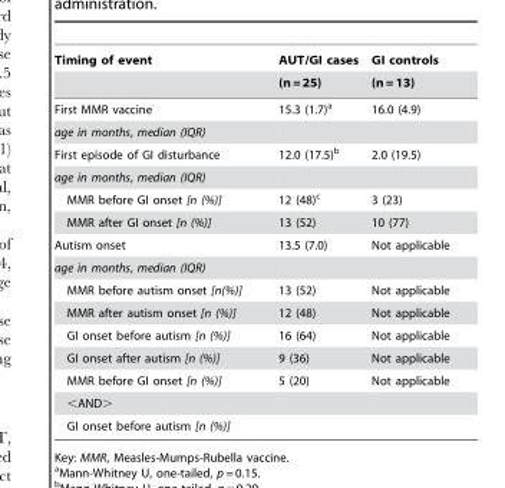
<table><thead><tr><td rowspan="2">Timing of event</td><td rowspan="2">AUT/GI cases (n = 25)</td><td rowspan="2">GI controls (n = 13)</td></tr><tr></tr></thead><tbody><tr><td>First MMR vaccine</td><td>15.3 (1.7)<sup>a</sup></td><td>16.0 (4.9)</td></tr><tr><td colspan="3">age in months, median (IQR)</td></tr><tr><td>First episode of GI disturbance</td><td>12.0 (17.5)<sup>b</sup></td><td>2.0 (19.5)</td></tr><tr><td colspan="3">age in months, median (IQR)</td></tr><tr><td>MMR before GI onset [n (%)]</td><td>12 (48)<sup>c</sup></td><td>3 (23)</td></tr><tr><td>MMR after GI onset [n (%)]</td><td>13 (52)</td><td>10 (77)</td></tr><tr><td>Autism onset</td><td>13.5 (7.0)</td><td>Not applicable</td></tr><tr><td colspan="3">age in months, median (IQR)</td></tr><tr><td>MMR before autism onset [n(%)]</td><td>13 (52)</td><td>Not applicable</td></tr><tr><td>MMR after autism onset [n (%)]</td><td>12 (48)</td><td>Not applicable</td></tr><tr><td>GI onset before autism [n (%)]</td><td>16 (64)</td><td>Not applicable</td></tr><tr><td>GI onset after autism [n (%)]</td><td>9 (36)</td><td>Not applicable</td></tr><tr><td>MMR before GI onset [n (%)]</td><td>5 (20)</td><td>Not applicable</td></tr><tr><td colspan="3">&lt;AND&gt;</td></tr><tr><td>GI onset before autism [n (%)]</td><td></td><td></td></tr></tbody></table>